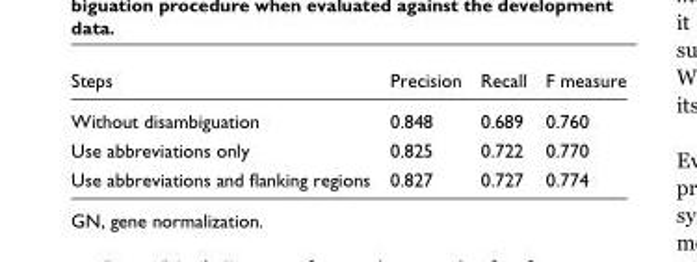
<table><thead><tr><td>Steps</td><td>Precision</td><td>Recall</td><td>F measure</td></tr></thead><tbody><tr><td>Without disambiguation</td><td>0.848</td><td>0.689</td><td>0.760</td></tr><tr><td>Use abbreviations only</td><td>0.825</td><td>0.722</td><td>0.770</td></tr><tr><td>Use abbreviations and flanking regions</td><td>0.827</td><td>0.727</td><td>0.774</td></tr></tbody></table>